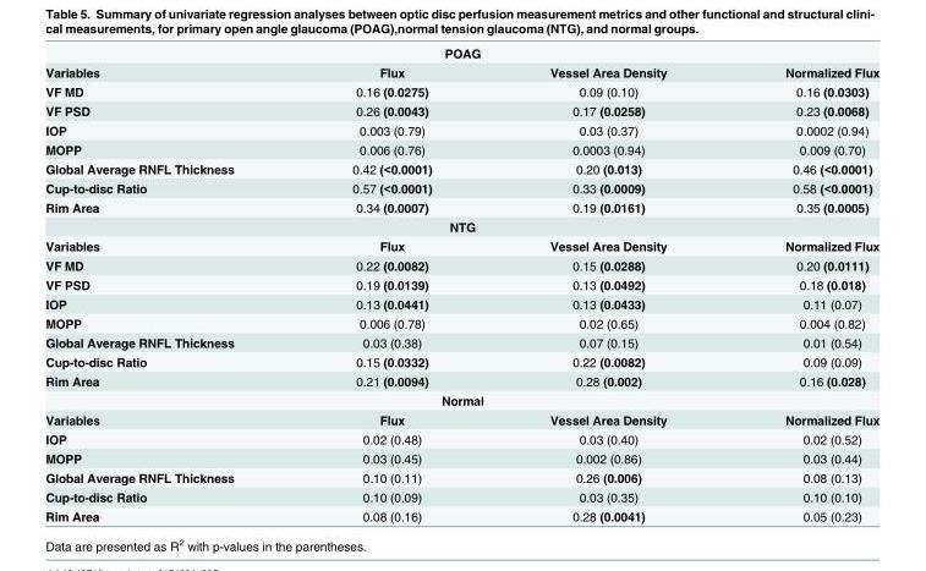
<table><tbody><tr><td colspan="4">POAG</td></tr><tr><td>Variables</td><td>Flux</td><td>Vessel Area Density</td><td>Normalized Flux</td></tr><tr><td>VF MD</td><td>0.16 (0.0275)</td><td>0.09 (0.10)</td><td>0.16 (0.0303)</td></tr><tr><td>VF PSD</td><td>0.26 (0.0043)</td><td>0.17 (0.0258)</td><td>0.23 (0.0068)</td></tr><tr><td>IOP</td><td>0.003 (0.79)</td><td>0.03 (0.37)</td><td>0.0002 (0.94)</td></tr><tr><td>MOPP</td><td>0.006 (0.76)</td><td>0.0003 (0.94)</td><td>0.009 (0.70)</td></tr><tr><td>Global Average RNFL Thickness</td><td>0.42 (&lt;0.0001)</td><td>0.20 (0.013)</td><td>0.46 (&lt;0.0001)</td></tr><tr><td>Cup-to-disc Ratio</td><td>0.57 (&lt;0.0001)</td><td>0.33 (0.0009)</td><td>0.58 (&lt;0.0001)</td></tr><tr><td>Rim Area</td><td>0.34 (0.0007)</td><td>0.19 (0.0161)</td><td>0.35 (0.0005)</td></tr><tr><td colspan="4">NTG</td></tr><tr><td>Variables</td><td>Flux</td><td>Vessel Area Density</td><td>Normalized Flux</td></tr><tr><td>VF MD</td><td>0.22 (0.0082)</td><td>0.15 (0.0288)</td><td>0.20 (0.0111)</td></tr><tr><td>VF PSD</td><td>0.19 (0.0139)</td><td>0.13 (0.0492)</td><td>0.18 (0.018)</td></tr><tr><td>IOP</td><td>0.13 (0.0441)</td><td>0.13 (0.0433)</td><td>0.11 (0.07)</td></tr><tr><td>MOPP</td><td>0.006 (0.78)</td><td>0.02 (0.65)</td><td>0.004 (0.82)</td></tr><tr><td>Global Average RNFL Thickness</td><td>0.03 (0.38)</td><td>0.07 (0.15)</td><td>0.01 (0.54)</td></tr><tr><td>Cup-to-disc Ratio</td><td>0.15 (0.0332)</td><td>0.22 (0.0082)</td><td>0.09 (0.09)</td></tr><tr><td>Rim Area</td><td>0.21 (0.0094)</td><td>0.28 (0.002)</td><td>0.16 (0.028)</td></tr><tr><td colspan="4">Normal</td></tr><tr><td>Variables</td><td>Flux</td><td>Vessel Area Density</td><td>Normalized Flux</td></tr><tr><td>IOP</td><td>0.02 (0.48)</td><td>0.03 (0.40)</td><td>0.02 (0.52)</td></tr><tr><td>MOPP</td><td>0.03 (0.45)</td><td>0.002 (0.86)</td><td>0.03 (0.44)</td></tr><tr><td>Global Average RNFL Thickness</td><td>0.10 (0.11)</td><td>0.26 (0.006)</td><td>0.08 (0.13)</td></tr><tr><td>Cup-to-disc Ratio</td><td>0.10 (0.09)</td><td>0.03 (0.35)</td><td>0.10 (0.10)</td></tr><tr><td>Rim Area</td><td>0.08 (0.16)</td><td>0.28 (0.0041)</td><td>0.05 (0.23)</td></tr></tbody></table>